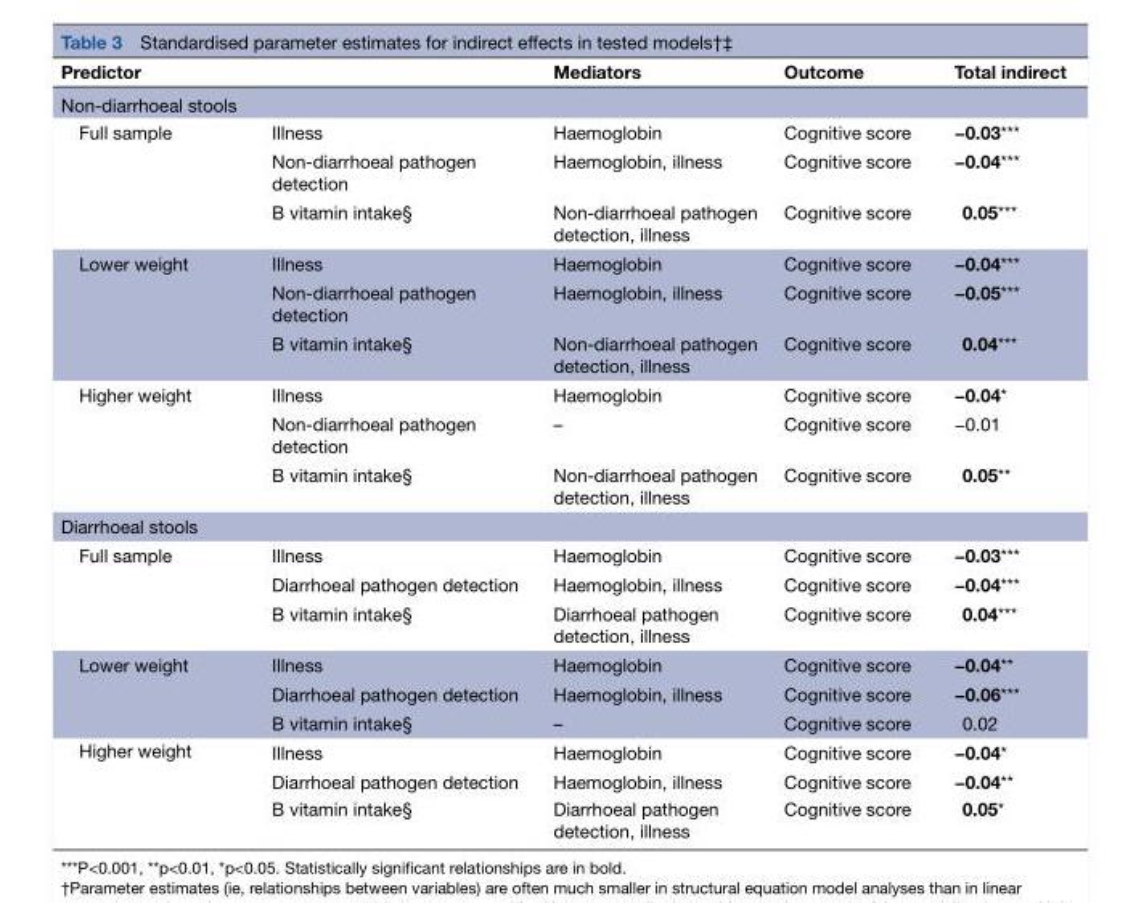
<table><thead><tr><td colspan="2">Predictor</td><td rowspan="2">Mediators</td><td rowspan="2">Outcome</td><td rowspan="2">Total indirect</td></tr><tr><td>Non-diarrhoeal stools</td><td></td></tr></thead><tbody><tr><td rowspan="3">Full sample</td><td>Illness</td><td>Haemoglobin</td><td>Cognitive score</td><td>−0.03***</td></tr><tr><td>Non-diarrhoeal pathogen detection</td><td>Haemoglobin, illness</td><td>Cognitive score</td><td>−0.04***</td></tr><tr><td>B vitamin intake§</td><td>Non-diarrhoeal pathogen detection, illness</td><td>Cognitive score</td><td>0.05***</td></tr><tr><td rowspan="3">Lower weight</td><td>Illness</td><td>Haemoglobin</td><td>Cognitive score</td><td>−0.04***</td></tr><tr><td>Non-diarrhoeal pathogen detection</td><td>Haemoglobin, illness</td><td>Cognitive score</td><td>−0.05***</td></tr><tr><td>B vitamin intake§</td><td>Non-diarrhoeal pathogen detection, illness</td><td>Cognitive score</td><td>0.04***</td></tr><tr><td rowspan="3">Higher weight</td><td>Illness</td><td>Haemoglobin</td><td>Cognitive score</td><td>−0.04*</td></tr><tr><td>Non-diarrhoeal pathogen detection</td><td>–</td><td>Cognitive score</td><td>−0.01</td></tr><tr><td>B vitamin intake§</td><td>Non-diarrhoeal pathogen detection, illness</td><td>Cognitive score</td><td>0.05**</td></tr><tr><td colspan="5">Diarrhoeal stools</td></tr><tr><td rowspan="3">Full sample</td><td>Illness</td><td>Haemoglobin</td><td>Cognitive score</td><td>−0.03***</td></tr><tr><td>Diarrhoeal pathogen detection</td><td>Haemoglobin, illness</td><td>Cognitive score</td><td>−0.04***</td></tr><tr><td>B vitamin intake§</td><td>Diarrhoeal pathogen detection, illness</td><td>Cognitive score</td><td>0.04***</td></tr><tr><td rowspan="3">Lower weight</td><td>Illness</td><td>Haemoglobin</td><td>Cognitive score</td><td>−0.04**</td></tr><tr><td>Diarrhoeal pathogen detection</td><td>Haemoglobin, illness</td><td>Cognitive score</td><td>−0.06***</td></tr><tr><td>B vitamin intake§</td><td>–</td><td>Cognitive score</td><td>0.02</td></tr><tr><td rowspan="3">Higher weight</td><td>Illness</td><td>Haemoglobin</td><td>Cognitive score</td><td>−0.04*</td></tr><tr><td>Diarrhoeal pathogen detection</td><td>Haemoglobin, illness</td><td>Cognitive score</td><td>−0.04**</td></tr><tr><td>B vitamin intake§</td><td>Diarrhoeal pathogen detection, illness</td><td>Cognitive score</td><td>0.05*</td></tr></tbody></table>